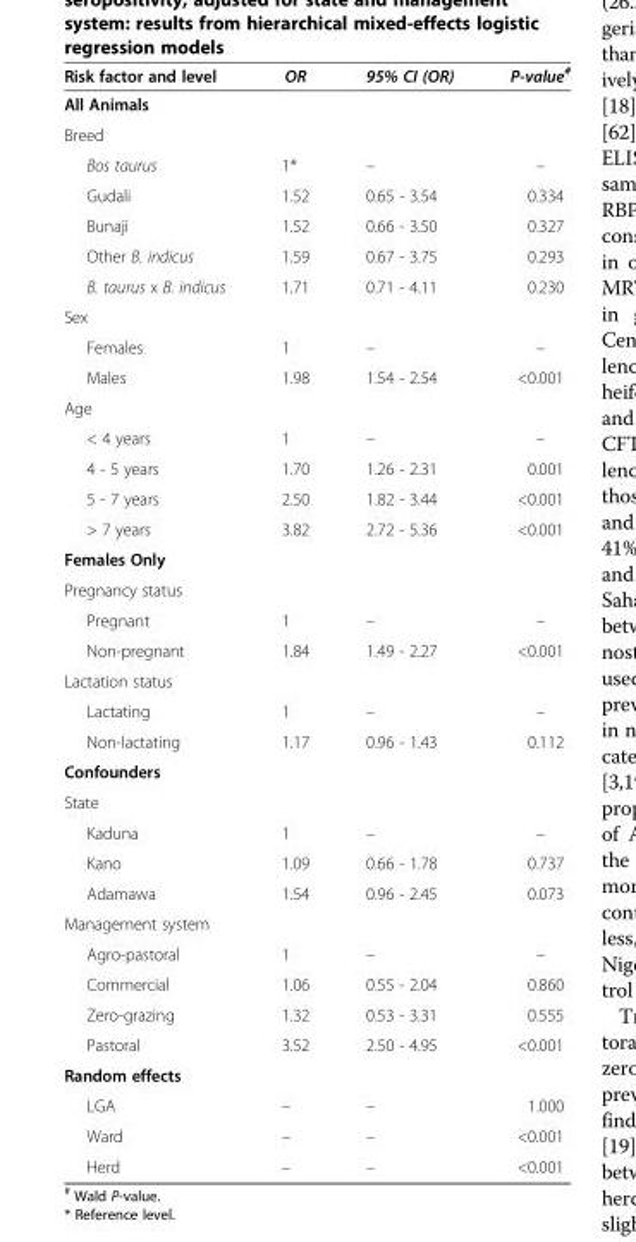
<table><thead><tr><td>Risk factor and level</td><td>OR</td><td>95% CI (OR)</td><td>P-value<sup>#</sup></td></tr></thead><tbody><tr><td colspan="4">All Animals</td></tr><tr><td colspan="4">Breed</td></tr><tr><td>Bos taurus</td><td>1*</td><td>–</td><td>–</td></tr><tr><td>Gudali</td><td>1.52</td><td>0.65 - 3.54</td><td>0.334</td></tr><tr><td>Bunaji</td><td>1.52</td><td>0.66 - 3.50</td><td>0.327</td></tr><tr><td>Other B. indicus</td><td>1.59</td><td>0.67 - 3.75</td><td>0.293</td></tr><tr><td>B. taurus x B. indicus</td><td>1.71</td><td>0.71 - 4.11</td><td>0.230</td></tr><tr><td colspan="4">Sex</td></tr><tr><td>Females</td><td>1</td><td>–</td><td>–</td></tr><tr><td>Males</td><td>1.98</td><td>1.54 - 2.54</td><td>&lt;0.001</td></tr><tr><td colspan="4">Age</td></tr><tr><td>&lt; 4 years</td><td>1</td><td>–</td><td>–</td></tr><tr><td>4 - 5 years</td><td>1.70</td><td>1.26 - 2.31</td><td>0.001</td></tr><tr><td>5 - 7 years</td><td>2.50</td><td>1.82 - 3.44</td><td>&lt;0.001</td></tr><tr><td>&gt; 7 years</td><td>3.82</td><td>2.72 - 5.36</td><td>&lt;0.001</td></tr><tr><td colspan="4">Females Only</td></tr><tr><td colspan="4">Pregnancy status</td></tr><tr><td>Pregnant</td><td>1</td><td>–</td><td>–</td></tr><tr><td>Non-pregnant</td><td>1.84</td><td>1.49 - 2.27</td><td>&lt;0.001</td></tr><tr><td colspan="4">Lactation status</td></tr><tr><td>Lactating</td><td>1</td><td>–</td><td>–</td></tr><tr><td>Non-lactating</td><td>1.17</td><td>0.96 - 1.43</td><td>0.112</td></tr><tr><td colspan="4">Confounders</td></tr><tr><td colspan="4">State</td></tr><tr><td>Kaduna</td><td>1</td><td>–</td><td>–</td></tr><tr><td>Kano</td><td>1.09</td><td>0.66 - 1.78</td><td>0.737</td></tr><tr><td>Adamawa</td><td>1.54</td><td>0.96 - 2.45</td><td>0.073</td></tr><tr><td colspan="4">Management system</td></tr><tr><td>Agro-pastoral</td><td>1</td><td>–</td><td>–</td></tr><tr><td>Commercial</td><td>1.06</td><td>0.55 - 2.04</td><td>0.860</td></tr><tr><td>Zero-grazing</td><td>1.32</td><td>0.53 - 3.31</td><td>0.555</td></tr><tr><td>Pastoral</td><td>3.52</td><td>2.50 - 4.95</td><td>&lt;0.001</td></tr><tr><td colspan="4">Random effects</td></tr><tr><td>LGA</td><td>–</td><td>–</td><td>1.000</td></tr><tr><td>Ward</td><td>–</td><td>–</td><td>&lt;0.001</td></tr><tr><td>Herd</td><td>–</td><td>–</td><td>&lt;0.001</td></tr></tbody></table>